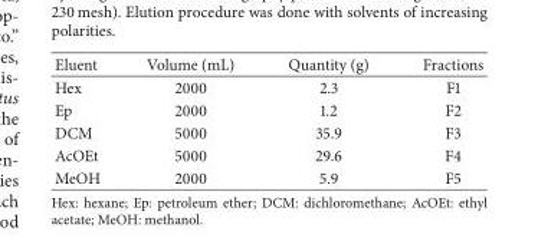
<table><thead><tr><td>Eluent</td><td>Volume (mL)</td><td>Quantity (g)</td><td>Fractions</td></tr></thead><tbody><tr><td>Hex</td><td>2000</td><td>2.3</td><td>F1</td></tr><tr><td>Ep</td><td>2000</td><td>1.2</td><td>F2</td></tr><tr><td>DCM</td><td>5000</td><td>35.9</td><td>F3</td></tr><tr><td>AcOEt</td><td>5000</td><td>29.6</td><td>F4</td></tr><tr><td>MeOH</td><td>2000</td><td>5.9</td><td>F5</td></tr></tbody></table>